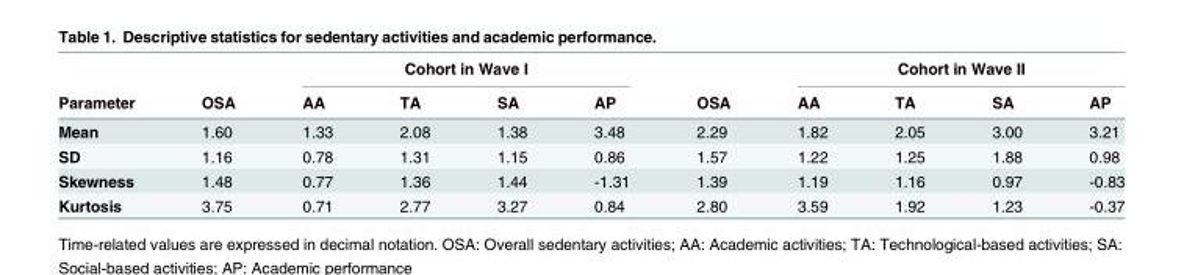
<table><thead><tr><td rowspan="2">Parameter</td><td rowspan="2">OSA</td><td colspan="4">Cohort in Wave I</td><td rowspan="2">OSA</td><td colspan="4">Cohort in Wave II</td></tr><tr><td>AA</td><td>TA</td><td>SA</td><td>AP</td><td>AA</td><td>TA</td><td>SA</td><td>AP</td></tr></thead><tbody><tr><td>Mean</td><td>1.60</td><td>1.33</td><td>2.08</td><td>1.38</td><td>3.48</td><td>2.29</td><td>1.82</td><td>2.05</td><td>3.00</td><td>3.21</td></tr><tr><td>SD</td><td>1.16</td><td>0.78</td><td>1.31</td><td>1.15</td><td>0.86</td><td>1.57</td><td>1.22</td><td>1.25</td><td>1.88</td><td>0.98</td></tr><tr><td>Skewness</td><td>1.48</td><td>0.77</td><td>1.36</td><td>1.44</td><td>-1.31</td><td>1.39</td><td>1.19</td><td>1.16</td><td>0.97</td><td>-0.83</td></tr><tr><td>Kurtosis</td><td>3.75</td><td>0.71</td><td>2.77</td><td>3.27</td><td>0.84</td><td>2.80</td><td>3.59</td><td>1.92</td><td>1.23</td><td>-0.37</td></tr></tbody></table>